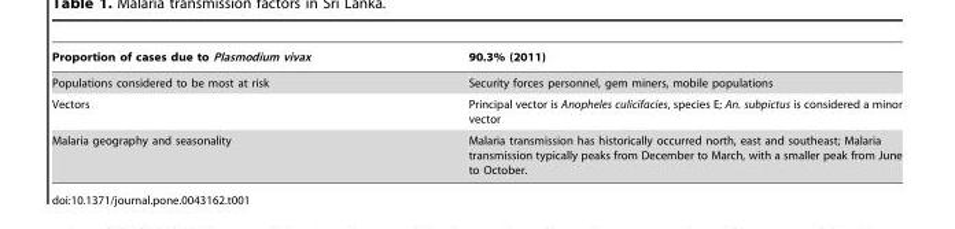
<table><thead><tr><td>Proportion of cases due to Plasmodium vivax</td><td>90.3% (2011)</td></tr></thead><tbody><tr><td>Populations considered to be most at risk</td><td>Security forces personnel, gem miners, mobile populations</td></tr><tr><td>Vectors</td><td>Principal vector is Anopheles culicifacies, species E; An. subpictus is considered a minor vector</td></tr><tr><td>Malaria geography and seasonality</td><td>Malaria transmission has historically occurred north, east and southeast; Malaria transmission typically peaks from December to March, with a smaller peak from June to October.</td></tr></tbody></table>